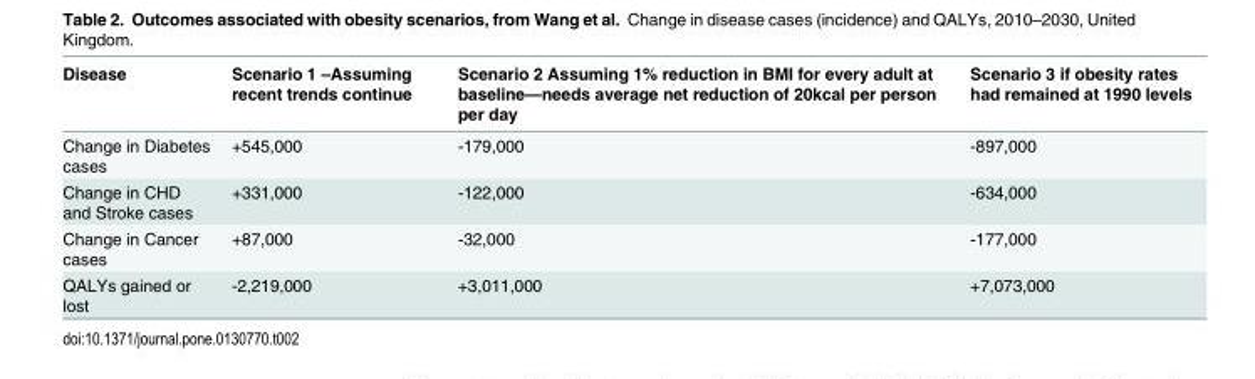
<table><thead><tr><td>Disease</td><td>Scenario 1 –Assuming recent trends continue</td><td>Scenario 2 Assuming 1% reduction in BMI for every adult at baseline—needs average net reduction of 20kcal per person per day</td><td>Scenario 3 if obesity rates had remained at 1990 levels</td></tr></thead><tbody><tr><td>Change in Diabetes cases</td><td>+545,000</td><td>-179,000</td><td>-897,000</td></tr><tr><td>Change in CHD and Stroke cases</td><td>+331,000</td><td>-122,000</td><td>-634,000</td></tr><tr><td>Change in Cancer cases</td><td>+87,000</td><td>-32,000</td><td>-177,000</td></tr><tr><td>QALYs gained or lost</td><td>-2,219,000</td><td>+3,011,000</td><td>+7,073,000</td></tr></tbody></table>